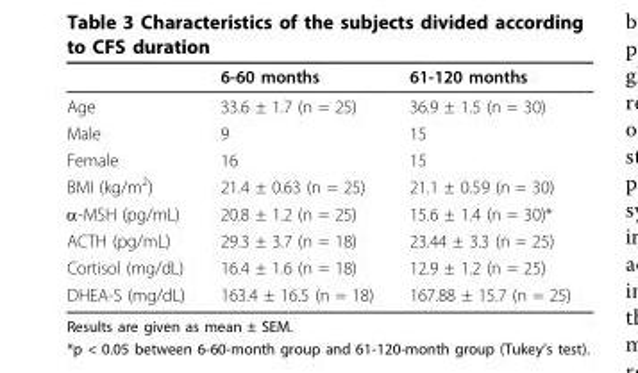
<table><thead><tr><td></td><td>6-60 months</td><td>61-120 months</td></tr></thead><tbody><tr><td>Age</td><td>33.6 ± 1.7 (n = 25)</td><td>36.9 ± 1.5 (n = 30)</td></tr><tr><td>Male</td><td>9</td><td>15</td></tr><tr><td>Female</td><td>16</td><td>15</td></tr><tr><td>BMI (kg/m<sup>2</sup>)</td><td>21.4 ± 0.63 (n = 25)</td><td>21.1 ± 0.59 (n = 30)</td></tr><tr><td>α-MSH (pg/mL)</td><td>20.8 ± 1.2 (n = 25)</td><td>15.6 ± 1.4 (n = 30)*</td></tr><tr><td>ACTH (pg/mL)</td><td>29.3 ± 3.7 (n = 18)</td><td>23.44 ± 3.3 (n = 25)</td></tr><tr><td>Cortisol (mg/dL)</td><td>16.4 ± 1.6 (n = 18)</td><td>12.9 ± 1.2 (n = 25)</td></tr><tr><td>DHEA-S (mg/dL)</td><td>163.4 ± 16.5 (n = 18)</td><td>167.88 ± 15.7 (n = 25)</td></tr></tbody></table>